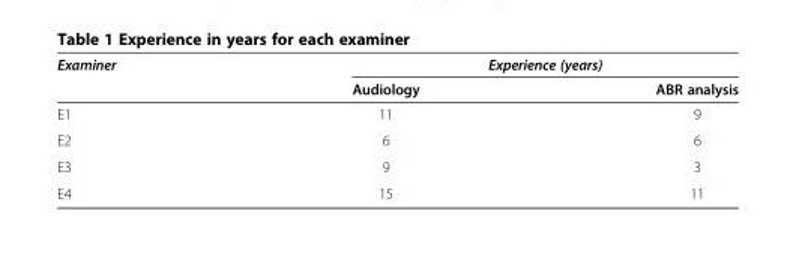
<table><thead><tr><td rowspan="2">Examiner</td><td colspan="2">Experience (years)</td></tr><tr><td>Audiology</td><td>ABR analysis</td></tr></thead><tbody><tr><td>E1</td><td>11</td><td>9</td></tr><tr><td>E2</td><td>6</td><td>6</td></tr><tr><td>E3</td><td>9</td><td>3</td></tr><tr><td>E4</td><td>15</td><td>11</td></tr></tbody></table>